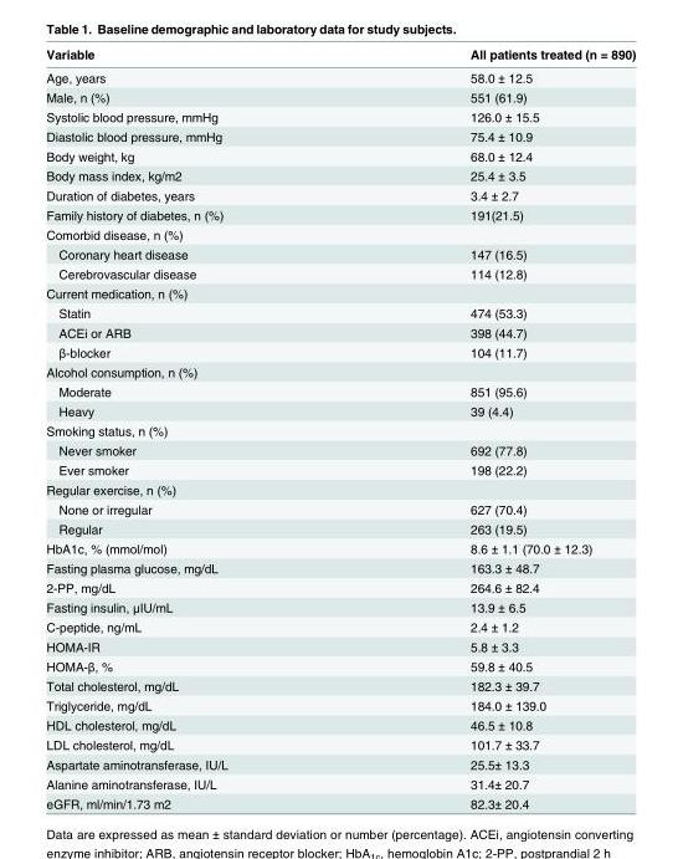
<table><thead><tr><td>Variable</td><td>All patients treated (n = 890)</td></tr></thead><tbody><tr><td>Age, years</td><td>58.0 ± 12.5</td></tr><tr><td>Male, n (%)</td><td>551 (61.9)</td></tr><tr><td>Systolic blood pressure, mmHg</td><td>126.0 ± 15.5</td></tr><tr><td>Diastolic blood pressure, mmHg</td><td>75.4 ± 10.9</td></tr><tr><td>Body weight, kg</td><td>68.0 ± 12.4</td></tr><tr><td>Body mass index, kg/m2</td><td>25.4 ± 3.5</td></tr><tr><td>Duration of diabetes, years</td><td>3.4 ± 2.7</td></tr><tr><td>Family history of diabetes, n (%)</td><td>191(21.5)</td></tr><tr><td colspan="2">Comorbid disease, n (%)</td></tr><tr><td>Coronary heart disease</td><td>147 (16.5)</td></tr><tr><td>Cerebrovascular disease</td><td>114 (12.8)</td></tr><tr><td colspan="2">Current medication, n (%)</td></tr><tr><td>Statin</td><td>474 (53.3)</td></tr><tr><td>ACEi or ARB</td><td>398 (44.7)</td></tr><tr><td>β-blocker</td><td>104 (11.7)</td></tr><tr><td colspan="2">Alcohol consumption, n (%)</td></tr><tr><td>Moderate</td><td>851 (95.6)</td></tr><tr><td>Heavy</td><td>39 (4.4)</td></tr><tr><td colspan="2">Smoking status, n (%)</td></tr><tr><td>Never smoker</td><td>692 (77.8)</td></tr><tr><td>Ever smoker</td><td>198 (22.2)</td></tr><tr><td colspan="2">Regular exercise, n (%)</td></tr><tr><td>None or irregular</td><td>627 (70.4)</td></tr><tr><td>Regular</td><td>263 (19.5)</td></tr><tr><td>HbA1c, % (mmol/mol)</td><td>8.6 ± 1.1 (70.0 ± 12.3)</td></tr><tr><td>Fasting plasma glucose, mg/dL</td><td>163.3 ± 48.7</td></tr><tr><td>2-PP, mg/dL</td><td>264.6 ± 82.4</td></tr><tr><td>Fasting insulin, μIU/mL</td><td>13.9 ± 6.5</td></tr><tr><td>C-peptide, ng/mL</td><td>2.4 ± 1.2</td></tr><tr><td>HOMA-IR</td><td>5.8 ± 3.3</td></tr><tr><td>HOMA-β, %</td><td>59.8 ± 40.5</td></tr><tr><td>Total cholesterol, mg/dL</td><td>182.3 ± 39.7</td></tr><tr><td>Triglyceride, mg/dL</td><td>184.0 ± 139.0</td></tr><tr><td>HDL cholesterol, mg/dL</td><td>46.5 ± 10.8</td></tr><tr><td>LDL cholesterol, mg/dL</td><td>101.7 ± 33.7</td></tr><tr><td>Aspartate aminotransferase, IU/L</td><td>25.5± 13.3</td></tr><tr><td>Alanine aminotransferase, IU/L</td><td>31.4± 20.7</td></tr><tr><td>eGFR, ml/min/1.73 m2</td><td>82.3± 20.4</td></tr></tbody></table>